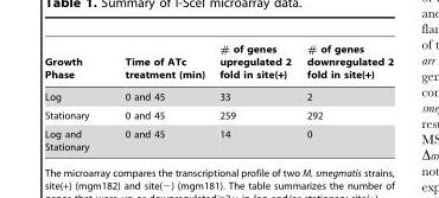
<table><thead><tr><td>Growth Phase</td><td>Time of ATc treatment (min)</td><td># of genes upregulated 2 fold in site(+)</td><td># of genes downregulated 2 fold in site(+)</td></tr></thead><tbody><tr><td>Log</td><td>0 and 45</td><td>33</td><td>2</td></tr><tr><td>Stationary</td><td>0 and 45</td><td>259</td><td>292</td></tr><tr><td>Log and Stationary</td><td>0 and 45</td><td>14</td><td>0</td></tr></tbody></table>